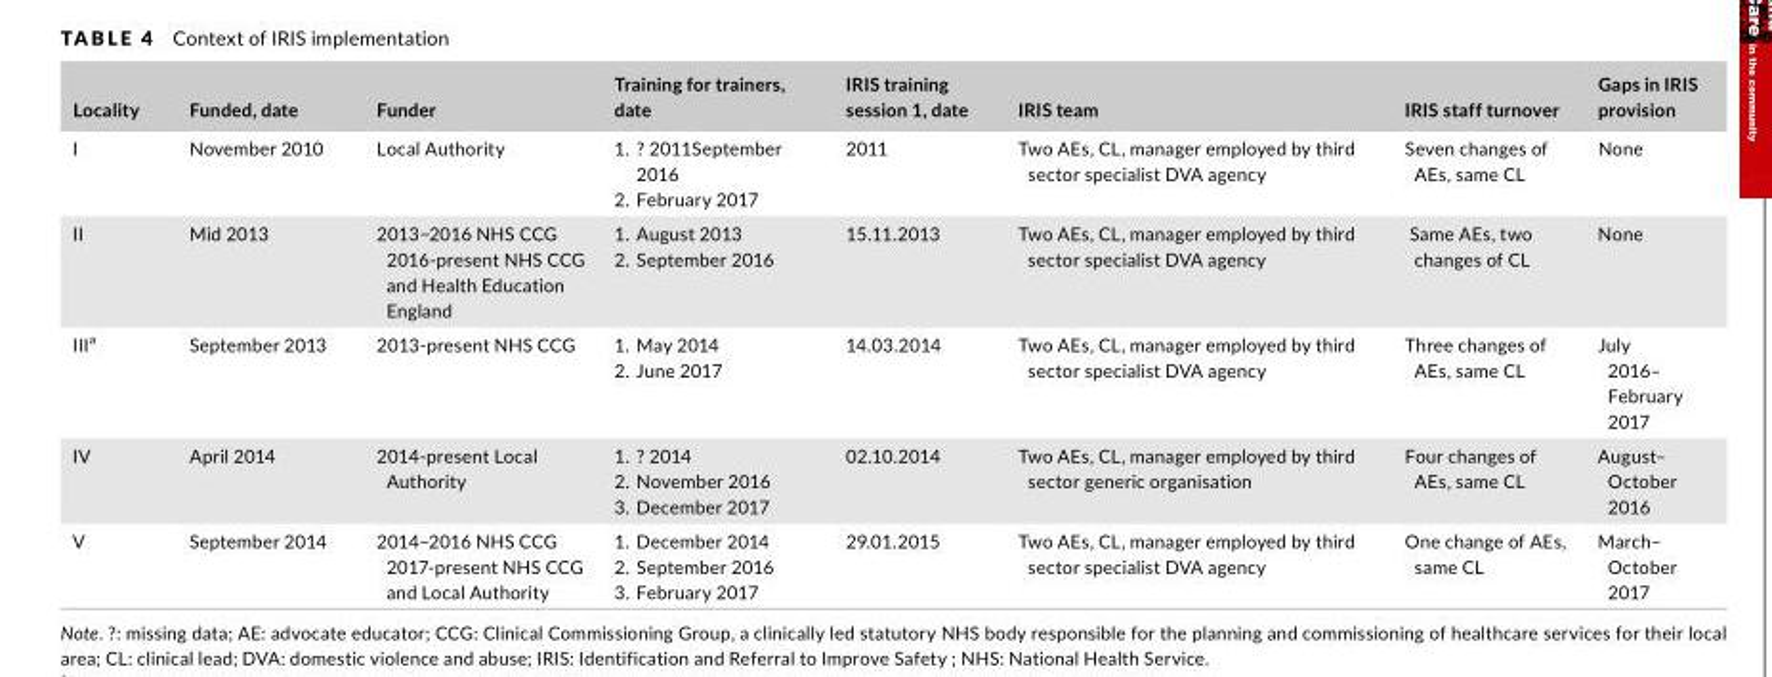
<table><thead><tr><td>Locality</td><td>Funded, date</td><td>Funder</td><td>Training for trainers, date</td><td>IRIS training session 1, date</td><td>IRIS team</td><td>IRIS staff turnover</td><td>Gaps in IRIS provision</td></tr></thead><tbody><tr><td>I</td><td>November 2010</td><td>Local Authority</td><td>1. ? 2011September 2016 2. February 2017</td><td>2011</td><td>Two AEs, CL, manager employed by third sector specialist DVA agency</td><td>Seven changes of AEs, same CL</td><td>None</td></tr><tr><td>II</td><td>Mid 2013</td><td>2013−2016 NHS CCG 2016‐present NHS CCG and Health Education England</td><td>1. August 2013 2. September 2016</td><td>15.11.2013</td><td>Two AEs, CL, manager employed by third sector specialist DVA agency</td><td>Same AEs, two changes of CL</td><td>None</td></tr><tr><td>III<sup>a</sup></td><td>September 2013</td><td>2013‐present NHS CCG</td><td>1. May 2014 2. June 2017</td><td>14.03.2014</td><td>Two AEs, CL, manager employed by third sector specialist DVA agency</td><td>Three changes of AEs, same CL</td><td>July 2016– February 2017</td></tr><tr><td>IV</td><td>April 2014</td><td>2014‐present Local Authority</td><td>1. ? 2014 2. November 2016 3. December 2017</td><td>02.10.2014</td><td>Two AEs, CL, manager employed by third sector generic organisation</td><td>Four changes of AEs, same CL</td><td>August– October 2016</td></tr><tr><td>V</td><td>September 2014</td><td>2014−2016 NHS CCG 2017‐present NHS CCG and Local Authority</td><td>1. December 2014 2. September 2016 3. February 2017</td><td>29.01.2015</td><td>Two AEs, CL, manager employed by third sector specialist DVA agency</td><td>One change of AEs, same CL</td><td>March– October 2017</td></tr></tbody></table>